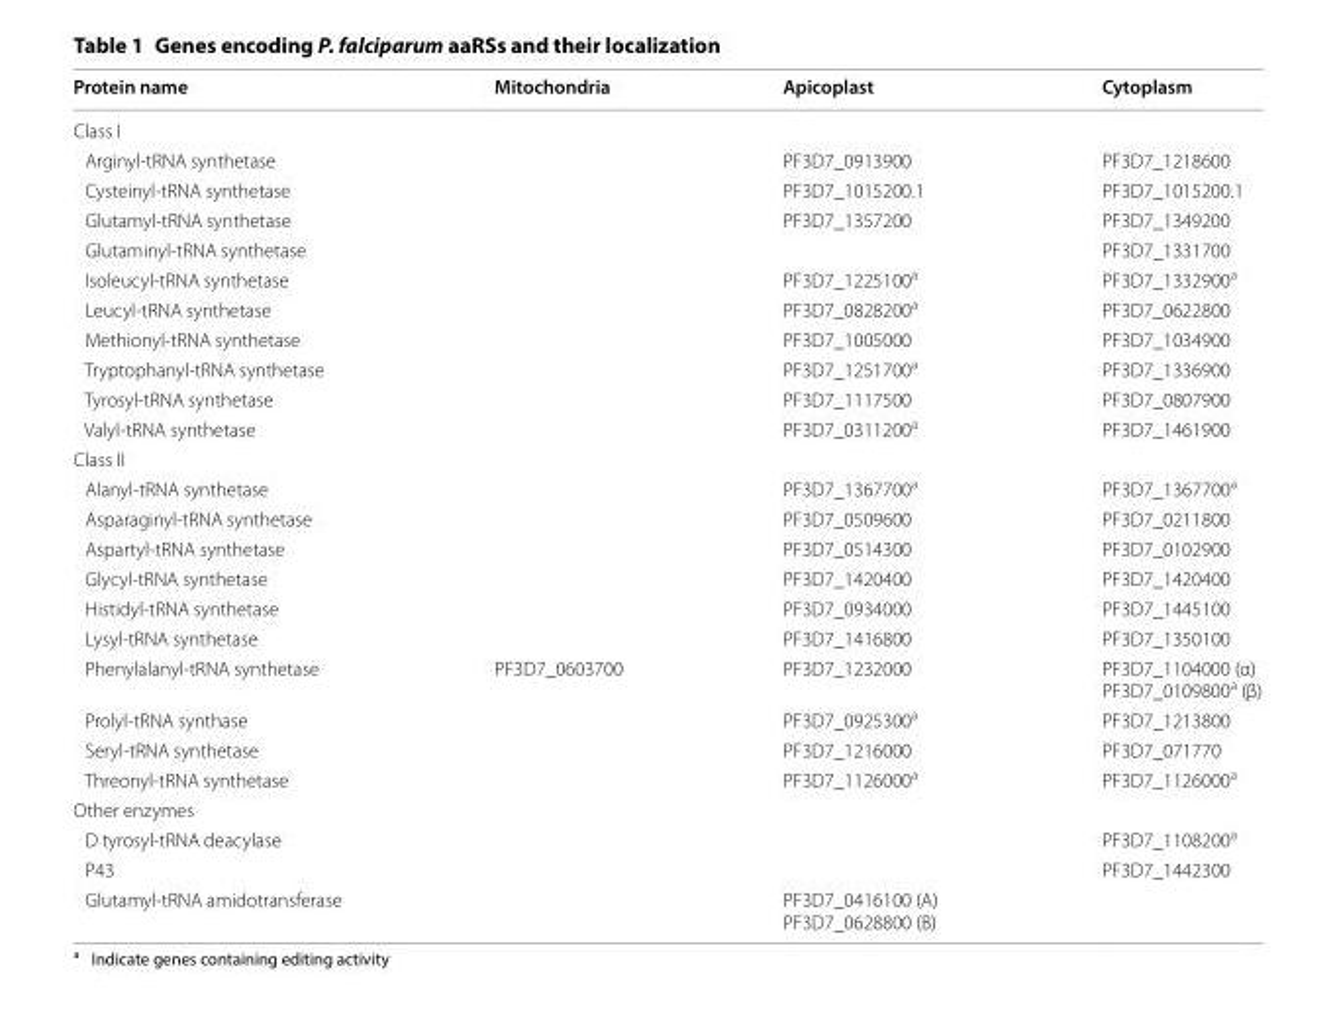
<table><thead><tr><td>Protein name</td><td>Mitochondria</td><td>Apicoplast</td><td>Cytoplasm</td></tr></thead><tbody><tr><td colspan="4">Class I</td></tr><tr><td>Arginyl-tRNA synthetase</td><td></td><td>PF3D7_0913900</td><td>PF3D7_1218600</td></tr><tr><td>Cysteinyl-tRNA synthetase</td><td></td><td>PF3D7_1015200.1</td><td>PF3D7_1015200.1</td></tr><tr><td>Glutamyl-tRNA synthetase</td><td></td><td>PF3D7_1357200</td><td>PF3D7_1349200</td></tr><tr><td>Glutaminyl-tRNA synthetase</td><td></td><td></td><td>PF3D7_1331700</td></tr><tr><td>Isoleucyl-tRNA synthetase</td><td></td><td>PF3D7_1225100<sup>a</sup></td><td>PF3D7_1332900<sup>a</sup></td></tr><tr><td>Leucyl-tRNA synthetase</td><td></td><td>PF3D7_0828200<sup>a</sup></td><td>PF3D7_0622800</td></tr><tr><td>Methionyl-tRNA synthetase</td><td></td><td>PF3D7_1005000</td><td>PF3D7_1034900</td></tr><tr><td>Tryptophanyl-tRNA synthetase</td><td></td><td>PF3D7_1251700<sup>a</sup></td><td>PF3D7_1336900</td></tr><tr><td>Tyrosyl-tRNA synthetase</td><td></td><td>PF3D7_1117500</td><td>PF3D7_0807900</td></tr><tr><td>Valyl-tRNA synthetase</td><td></td><td>PF3D7_0311200<sup>a</sup></td><td>PF3D7_1461900</td></tr><tr><td colspan="4">Class II</td></tr><tr><td>Alanyl-tRNA synthetase</td><td></td><td>PF3D7_1367700<sup>a</sup></td><td>PF3D7_1367700<sup>a</sup></td></tr><tr><td>Asparaginyl-tRNA synthetase</td><td></td><td>PF3D7_0509600</td><td>PF3D7_0211800</td></tr><tr><td>Aspartyl-tRNA synthetase</td><td></td><td>PF3D7_0514300</td><td>PF3D7_0102900</td></tr><tr><td>Glycyl-tRNA synthetase</td><td></td><td>PF3D7_1420400</td><td>PF3D7_1420400</td></tr><tr><td>Histidyl-tRNA synthetase</td><td></td><td>PF3D7_0934000</td><td>PF3D7_1445100</td></tr><tr><td>Lysyl-tRNA synthetase</td><td></td><td>PF3D7_1416800</td><td>PF3D7_1350100</td></tr><tr><td>Phenylalanyl-tRNA synthetase</td><td>PF3D7_0603700</td><td>PF3D7_1232000</td><td>PF3D7_1104000 (α) PF3D7_0109800<sup>a</sup> (β)</td></tr><tr><td>Prolyl-tRNA synthase</td><td></td><td>PF3D7_0925300<sup>a</sup></td><td>PF3D7_1213800</td></tr><tr><td>Seryl-tRNA synthetase</td><td></td><td>PF3D7_1216000</td><td>PF3D7_071770</td></tr><tr><td>Threonyl-tRNA synthetase</td><td></td><td>PF3D7_1126000<sup>a</sup></td><td>PF3D7_1126000<sup>a</sup></td></tr><tr><td colspan="4">Other enzymes</td></tr><tr><td>D tyrosyl-tRNA deacylase</td><td></td><td></td><td>PF3D7_1108200<sup>a</sup></td></tr><tr><td>P43</td><td></td><td></td><td>PF3D7_1442300</td></tr><tr><td>Glutamyl-tRNA amidotransferase</td><td></td><td>PF3D7_0416100 (A) PF3D7_0628800 (B)</td><td></td></tr></tbody></table>